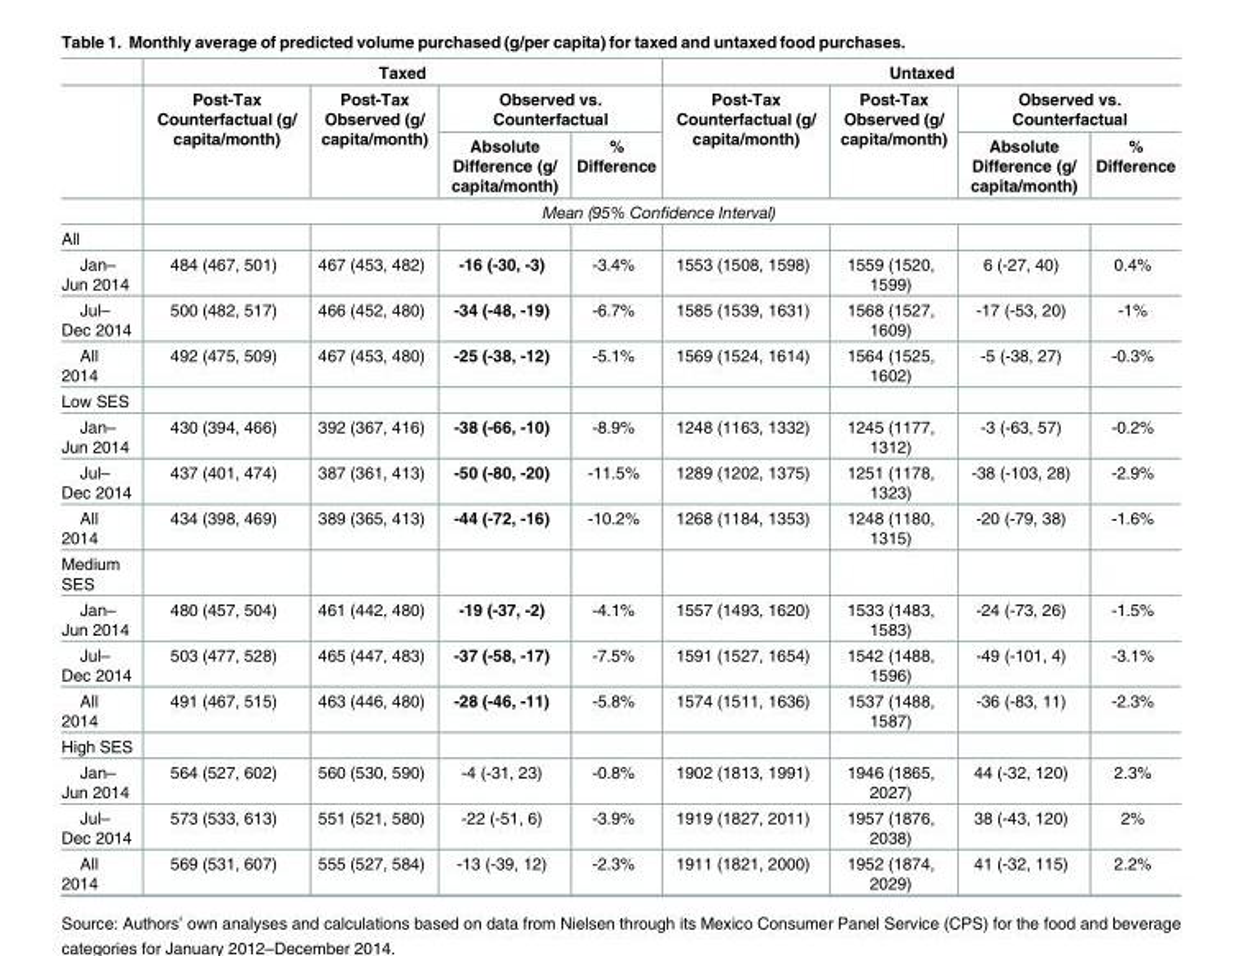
<table><thead><tr><td rowspan="3"></td><td colspan="4">Taxed</td><td colspan="4">Untaxed</td></tr><tr><td rowspan="2">Post-Tax Counterfactual (g/ capita/month)</td><td rowspan="2">Post-Tax Observed (g/ capita/month)</td><td colspan="2">Observed vs. Counterfactual</td><td rowspan="2">Post-Tax Counterfactual (g/ capita/month)</td><td rowspan="2">Post-Tax Observed (g/ capita/month)</td><td colspan="2">Observed vs. Counterfactual</td></tr><tr><td>Absolute Difference (g/ capita/month)</td><td>% Difference</td><td>Absolute Difference (g/ capita/month)</td><td>% Difference</td></tr></thead><tbody><tr><td></td><td colspan="8">Mean (95% Confidence Interval)</td></tr><tr><td colspan="9">All</td></tr><tr><td>Jan– Jun 2014</td><td>484 (467, 501)</td><td>467 (453, 482)</td><td>-16 (-30, -3)</td><td>-3.4%</td><td>1553 (1508, 1598)</td><td>1559 (1520, 1599)</td><td>6 (-27, 40)</td><td>0.4%</td></tr><tr><td>Jul– Dec 2014</td><td>500 (482, 517)</td><td>466 (452, 480)</td><td>-34 (-48, -19)</td><td>-6.7%</td><td>1585 (1539, 1631)</td><td>1568 (1527, 1609)</td><td>-17 (-53, 20)</td><td>-1%</td></tr><tr><td>All 2014</td><td>492 (475, 509)</td><td>467 (453, 480)</td><td>-25 (-38, -12)</td><td>-5.1%</td><td>1569 (1524, 1614)</td><td>1564 (1525, 1602)</td><td>-5 (-38, 27)</td><td>-0.3%</td></tr><tr><td colspan="9">Low SES</td></tr><tr><td>Jan– Jun 2014</td><td>430 (394, 466)</td><td>392 (367, 416)</td><td>-38 (-66, -10)</td><td>-8.9%</td><td>1248 (1163, 1332)</td><td>1245 (1177, 1312)</td><td>-3 (-63, 57)</td><td>-0.2%</td></tr><tr><td>Jul– Dec 2014</td><td>437 (401, 474)</td><td>387 (361, 413)</td><td>-50 (-80, -20)</td><td>-11.5%</td><td>1289 (1202, 1375)</td><td>1251 (1178, 1323)</td><td>-38 (-103, 28)</td><td>-2.9%</td></tr><tr><td>All 2014</td><td>434 (398, 469)</td><td>389 (365, 413)</td><td>-44 (-72, -16)</td><td>-10.2%</td><td>1268 (1184, 1353)</td><td>1248 (1180, 1315)</td><td>-20 (-79, 38)</td><td>-1.6%</td></tr><tr><td colspan="9">Medium SES</td></tr><tr><td>Jan– Jun 2014</td><td>480 (457, 504)</td><td>461 (442, 480)</td><td>-19 (-37, -2)</td><td>-4.1%</td><td>1557 (1493, 1620)</td><td>1533 (1483, 1583)</td><td>-24 (-73, 26)</td><td>-1.5%</td></tr><tr><td>Jul– Dec 2014</td><td>503 (477, 528)</td><td>465 (447, 483)</td><td>-37 (-58, -17)</td><td>-7.5%</td><td>1591 (1527, 1654)</td><td>1542 (1488, 1596)</td><td>-49 (-101, 4)</td><td>-3.1%</td></tr><tr><td>All 2014</td><td>491 (467, 515)</td><td>463 (446, 480)</td><td>-28 (-46, -11)</td><td>-5.8%</td><td>1574 (1511, 1636)</td><td>1537 (1488, 1587)</td><td>-36 (-83, 11)</td><td>-2.3%</td></tr><tr><td colspan="9">High SES</td></tr><tr><td>Jan– Jun 2014</td><td>564 (527, 602)</td><td>560 (530, 590)</td><td>-4 (-31, 23)</td><td>-0.8%</td><td>1902 (1813, 1991)</td><td>1946 (1865, 2027)</td><td>44 (-32, 120)</td><td>2.3%</td></tr><tr><td>Jul– Dec 2014</td><td>573 (533, 613)</td><td>551 (521, 580)</td><td>-22 (-51, 6)</td><td>-3.9%</td><td>1919 (1827, 2011)</td><td>1957 (1876, 2038)</td><td>38 (-43, 120)</td><td>2%</td></tr><tr><td>All 2014</td><td>569 (531, 607)</td><td>555 (527, 584)</td><td>-13 (-39, 12)</td><td>-2.3%</td><td>1911 (1821, 2000)</td><td>1952 (1874, 2029)</td><td>41 (-32, 115)</td><td>2.2%</td></tr></tbody></table>